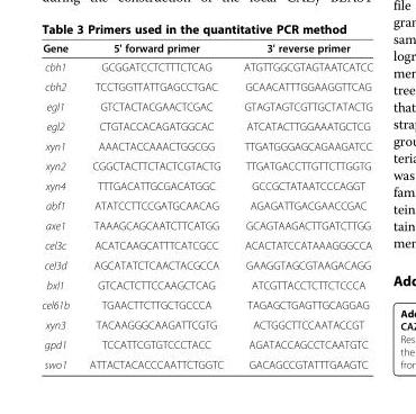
<table><thead><tr><td>Gene</td><td>5&#x27; forward primer</td><td>3&#x27; reverse primer</td></tr></thead><tbody><tr><td>cbh1</td><td>GCGGATCCTCTTTCTCAG</td><td>ATGTTGGCGTAGTAATCATCC</td></tr><tr><td>cbh2</td><td>TCCTGGTTATTGAGCCTGAC</td><td>GCAACATTTGGAAGGTTCAG</td></tr><tr><td>egl1</td><td>GTCTACTACGAACTCGAC</td><td>GTAGTAGTCGTTGCTATACTG</td></tr><tr><td>egl2</td><td>CTGTACCACAGATGGCAC</td><td>ATCATACTTGGAAATGCTCG</td></tr><tr><td>xyn1</td><td>AAACTACCAAACTGGCGG</td><td>TTGATGGGAGCAGAAGATCC</td></tr><tr><td>xyn2</td><td>CGGCTACTTCTACTCGTACTG</td><td>TTGATGACCTTGTTCTTGGTG</td></tr><tr><td>xyn4</td><td>TTTGACATTGCGACATGGC</td><td>GCCGCTATAATCCCAGGT</td></tr><tr><td>abf1</td><td>ATATCCTTCCGATGCAACAG</td><td>AGAGATTGACGAACCGAC</td></tr><tr><td>axe1</td><td>TAAAGCAGCAATCTTCATGG</td><td>GCAGTAAGACTTGATCTTGG</td></tr><tr><td>cel3c</td><td>ACATCAAGCATTTCATCGCC</td><td>ACACTATCCATAAAGGGCCA</td></tr><tr><td>cel3d</td><td>AGCATATCTCAACTACGCCA</td><td>GAAGGTAGCGTAAGACAGG</td></tr><tr><td>bxl1</td><td>GTCACTCTTCCAAGCTCAG</td><td>ATCGTTACCTCTTCTCCCA</td></tr><tr><td>cel61b</td><td>TGAACTTCTTGCTGCCCA</td><td>TAGAGCTGAGTTGCAGGAG</td></tr><tr><td>xyn3</td><td>TACAAGGGCAAGATTCGTG</td><td>ACTGGCTTCCAATACCGT</td></tr><tr><td>gpd1</td><td>TCCATTCGTGTCCCTACC</td><td>AGATACCAGCCTCAATGTC</td></tr><tr><td>swo1</td><td>ATTACTACACCCAATTCTGGTC</td><td>GACAGCCGTATTTGAAGTC</td></tr></tbody></table>